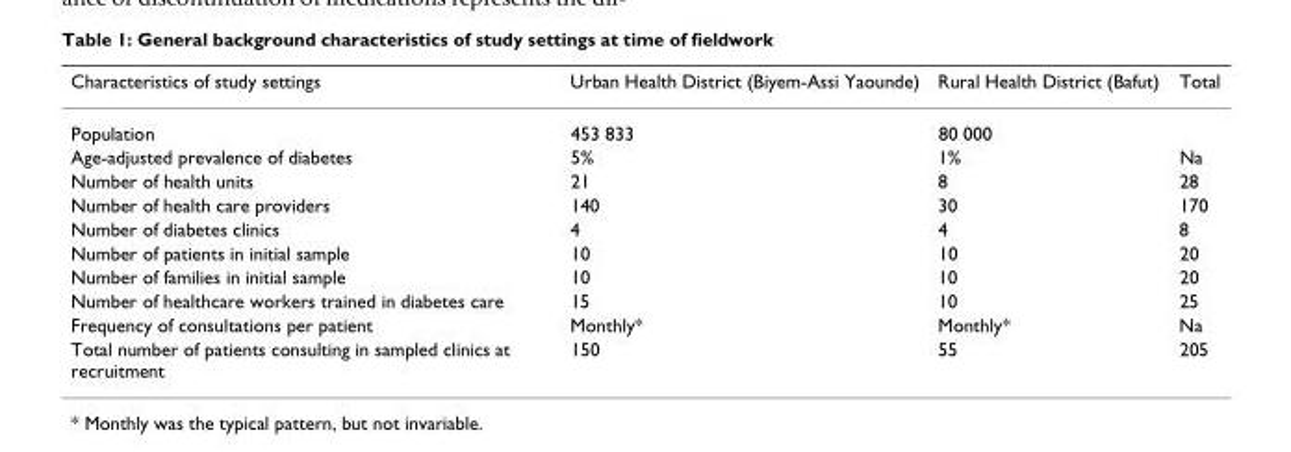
<table><thead><tr><td>Characteristics of study settings</td><td>Urban Health District (Biyem-Assi Yaounde)</td><td>Rural Health District (Bafut)</td><td>Total</td></tr></thead><tbody><tr><td>Population</td><td>453 833</td><td>80 000</td><td></td></tr><tr><td>Age-adjusted prevalence of diabetes</td><td>5%</td><td>1%</td><td>Na</td></tr><tr><td>Number of health units</td><td>21</td><td>8</td><td>28</td></tr><tr><td>Number of health care providers</td><td>140</td><td>30</td><td>170</td></tr><tr><td>Number of diabetes clinics</td><td>4</td><td>4</td><td>8</td></tr><tr><td>Number of patients in initial sample</td><td>10</td><td>10</td><td>20</td></tr><tr><td>Number of families in initial sample</td><td>10</td><td>10</td><td>20</td></tr><tr><td>Number of healthcare workers trained in diabetes care</td><td>15</td><td>10</td><td>25</td></tr><tr><td>Frequency of consultations per patient</td><td>Monthly*</td><td>Monthly*</td><td>Na</td></tr><tr><td>Total number of patients consulting in sampled clinics at recruitment</td><td>150</td><td>55</td><td>205</td></tr></tbody></table>